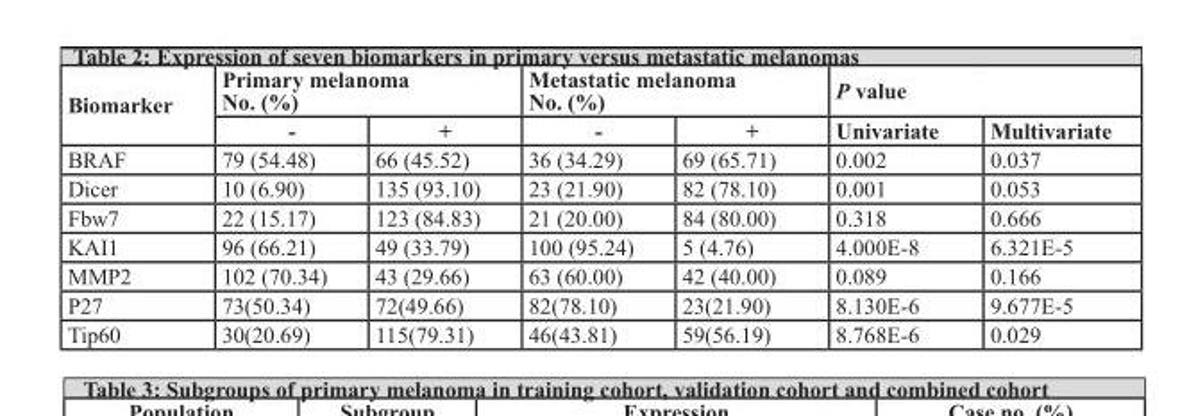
<table><thead><tr><td rowspan="2">Biomarker</td><td colspan="2">Primary melanoma No. (%)</td><td colspan="2">Metastatic melanoma No. (%)</td><td colspan="2">P value</td></tr><tr><td>-</td><td>+</td><td>-</td><td>+</td><td>Univariate</td><td>Multivariate</td></tr></thead><tbody><tr><td>BRAF</td><td>79 (54.48)</td><td>66 (45.52)</td><td>36 (34.29)</td><td>69 (65.71)</td><td>0.002</td><td>0.037</td></tr><tr><td>Dicer</td><td>10 (6.90)</td><td>135 (93.10)</td><td>23 (21.90)</td><td>82 (78.10)</td><td>0.001</td><td>0.053</td></tr><tr><td>Fbw7</td><td>22 (15.17)</td><td>123 (84.83)</td><td>21 (20.00)</td><td>84 (80.00)</td><td>0.318</td><td>0.666</td></tr><tr><td>KAI1</td><td>96 (66.21)</td><td>49 (33.79)</td><td>100 (95.24)</td><td>5 (4.76)</td><td>4.000E-8</td><td>6.321E-5</td></tr><tr><td>MMP2</td><td>102 (70.34)</td><td>43 (29.66)</td><td>63 (60.00)</td><td>42 (40.00)</td><td>0.089</td><td>0.166</td></tr><tr><td>P27</td><td>73(50.34)</td><td>72(49.66)</td><td>82(78.10)</td><td>23(21.90)</td><td>8.130E-6</td><td>9.677E-5</td></tr><tr><td>Tip60</td><td>30(20.69)</td><td>115(79.31)</td><td>46(43.81)</td><td>59(56.19)</td><td>8.768E-6</td><td>0.029</td></tr></tbody></table>